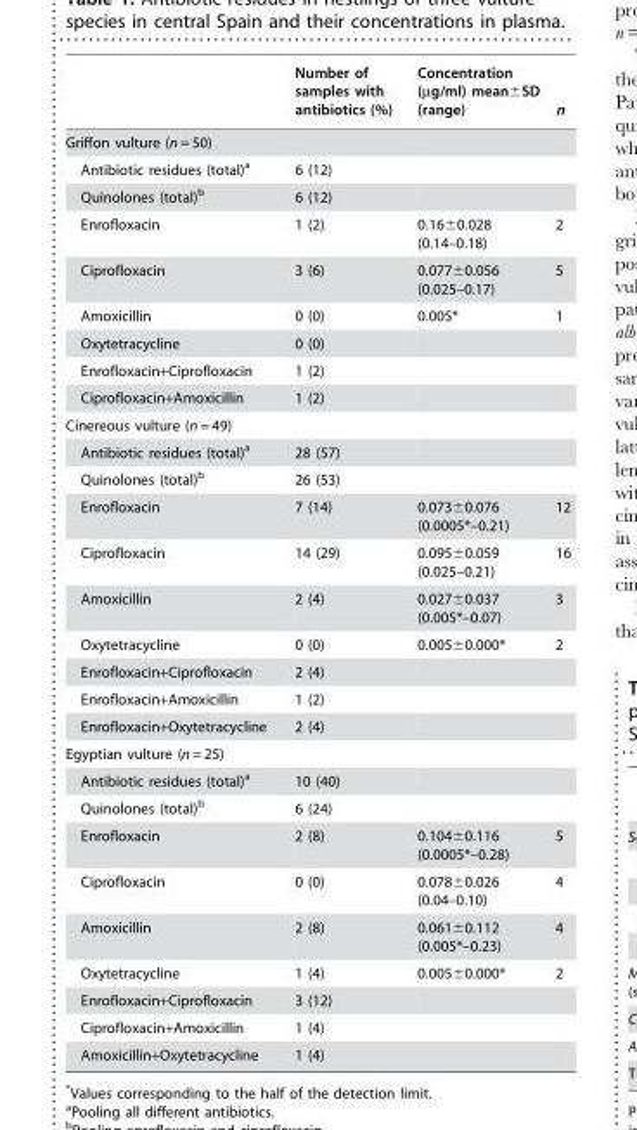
<table><thead><tr><td></td><td>Number of samples with antibiotics (%)</td><td>Concentration (µg/ml) mean±SD (range)</td><td>n</td></tr></thead><tbody><tr><td colspan="4">Griffon vulture (n = 50)</td></tr><tr><td>Antibiotic residues (total)a</td><td>6 (12)</td><td></td><td></td></tr><tr><td>Quinolones (total)b</td><td>6 (12)</td><td></td><td></td></tr><tr><td>Enrofloxacin</td><td>1 (2)</td><td>0.16±0.028 (0.14–0.18)</td><td>2</td></tr><tr><td>Ciprofloxacin</td><td>3 (6)</td><td>0.077±0.056 (0.025–0.17)</td><td>5</td></tr><tr><td>Amoxicillin</td><td>0 (0)</td><td>0.005*</td><td>1</td></tr><tr><td>Oxytetracycline</td><td>0 (0)</td><td></td><td></td></tr><tr><td>Enrofloxacin+Ciprofloxacin</td><td>1 (2)</td><td></td><td></td></tr><tr><td>Ciprofloxacin+Amoxicillin</td><td>1 (2)</td><td></td><td></td></tr><tr><td colspan="4">Cinereous vulture (n = 49)</td></tr><tr><td>Antibiotic residues (total)a</td><td>28 (57)</td><td></td><td></td></tr><tr><td>Quinolones (total)b</td><td>26 (53)</td><td></td><td></td></tr><tr><td>Enrofloxacin</td><td>7 (14)</td><td>0.073±0.076 (0.0005*–0.21)</td><td>12</td></tr><tr><td>Ciprofloxacin</td><td>14 (29)</td><td>0.095±0.059 (0.025–0.21)</td><td>16</td></tr><tr><td>Amoxicillin</td><td>2 (4)</td><td>0.027±0.037 (0.005*–0.07)</td><td>3</td></tr><tr><td>Oxytetracycline</td><td>0 (0)</td><td>0.005±0.000*</td><td>2</td></tr><tr><td>Enrofloxacin+Ciprofloxacin</td><td>2 (4)</td><td></td><td></td></tr><tr><td>Enrofloxacin+Amoxicillin</td><td>1 (2)</td><td></td><td></td></tr><tr><td>Enrofloxacin+Oxytetracycline</td><td>2 (4)</td><td></td><td></td></tr><tr><td colspan="4">Egyptian vulture (n = 25)</td></tr><tr><td>Antibiotic residues (total)a</td><td>10 (40)</td><td></td><td></td></tr><tr><td>Quinolones (total)b</td><td>6 (24)</td><td></td><td></td></tr><tr><td>Enrofloxacin</td><td>2 (8)</td><td>0.104±0.116 (0.0005*–0.28)</td><td>5</td></tr><tr><td>Ciprofloxacin</td><td>0 (0)</td><td>0.078±0.026 (0.04–0.10)</td><td>4</td></tr><tr><td>Amoxicillin</td><td>2 (8)</td><td>0.061±0.112 (0.005*–0.23)</td><td>4</td></tr><tr><td>Oxytetracycline</td><td>1 (4)</td><td>0.005±0.000*</td><td>2</td></tr><tr><td>Enrofloxacin+Ciprofloxacin</td><td>3 (12)</td><td></td><td></td></tr><tr><td>Ciprofloxacin+Amoxicillin</td><td>1 (4)</td><td></td><td></td></tr><tr><td>Amoxicillin+Oxytetracycline</td><td>1 (4)</td><td></td><td></td></tr></tbody></table>